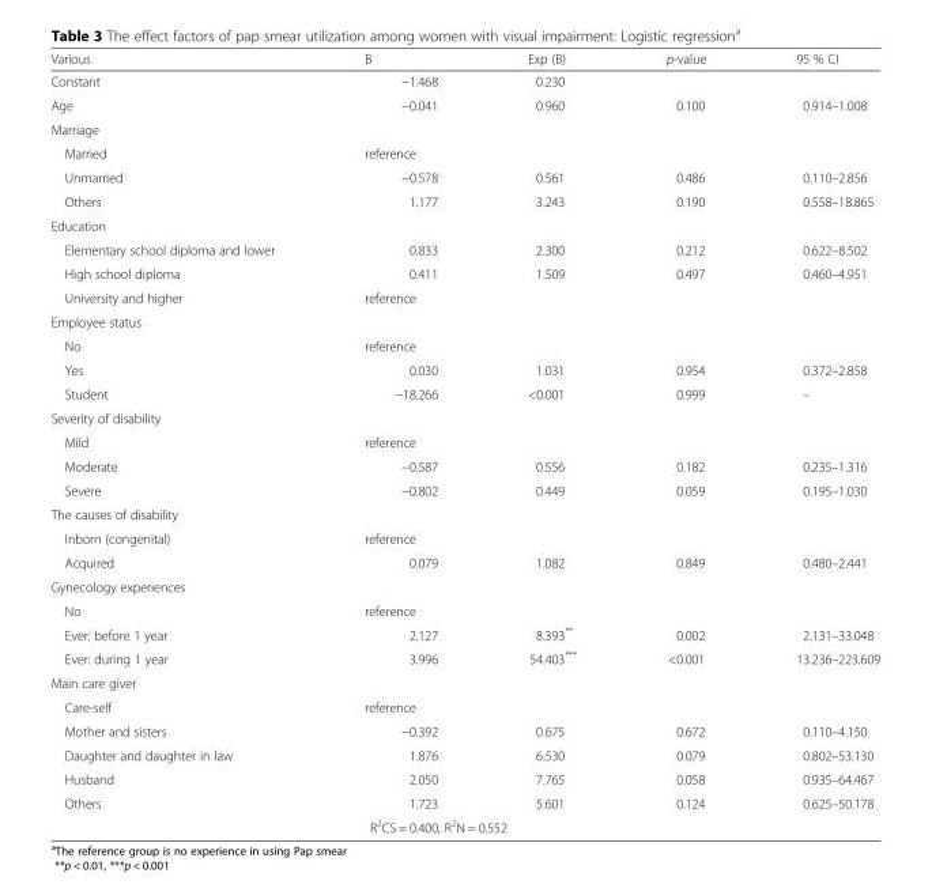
<table><thead><tr><td>Various</td><td>B</td><td>Exp (B)</td><td>p-value</td><td>95 % CI</td></tr></thead><tbody><tr><td>Constant</td><td>−1.468</td><td>0.230</td><td></td><td></td></tr><tr><td>Age</td><td>−0.041</td><td>0.960</td><td>0.100</td><td>0.914–1.008</td></tr><tr><td colspan="5">Marriage</td></tr><tr><td>Married</td><td>reference</td><td></td><td></td><td></td></tr><tr><td>Unmarried</td><td>−0.578</td><td>0.561</td><td>0.486</td><td>0.110–2.856</td></tr><tr><td>Others</td><td>1.177</td><td>3.243</td><td>0.190</td><td>0.558–18.865</td></tr><tr><td colspan="5">Education</td></tr><tr><td>Elementary school diploma and lower</td><td>0.833</td><td>2.300</td><td>0.212</td><td>0.622–8.502</td></tr><tr><td>High school diploma</td><td>0.411</td><td>1.509</td><td>0.497</td><td>0.460–4.951</td></tr><tr><td>University and higher</td><td>reference</td><td></td><td></td><td></td></tr><tr><td colspan="5">Employee status</td></tr><tr><td>No</td><td>reference</td><td></td><td></td><td></td></tr><tr><td>Yes</td><td>0.030</td><td>1.031</td><td>0.954</td><td>0.372–2.858</td></tr><tr><td>Student</td><td>−18.266</td><td>&lt;0.001</td><td>0.999</td><td>–</td></tr><tr><td colspan="5">Severity of disability</td></tr><tr><td>Mild</td><td>reference</td><td></td><td></td><td></td></tr><tr><td>Moderate</td><td>−0.587</td><td>0.556</td><td>0.182</td><td>0.235–1.316</td></tr><tr><td>Severe</td><td>−0.802</td><td>0.449</td><td>0.059</td><td>0.195–1.030</td></tr><tr><td colspan="5">The causes of disability</td></tr><tr><td>Inborn (congenital)</td><td>reference</td><td></td><td></td><td></td></tr><tr><td>Acquired</td><td>0.079</td><td>1.082</td><td>0.849</td><td>0.480–2.441</td></tr><tr><td colspan="5">Gynecology experiences</td></tr><tr><td>No</td><td>reference</td><td></td><td></td><td></td></tr><tr><td>Ever: before 1 year</td><td>2.127</td><td>8.393**</td><td>0.002</td><td>2.131–33.048</td></tr><tr><td>Ever: during 1 year</td><td>3.996</td><td>54.403***</td><td>&lt;0.001</td><td>13.236–223.609</td></tr><tr><td colspan="5">Main care giver</td></tr><tr><td>Care-self</td><td>reference</td><td></td><td></td><td></td></tr><tr><td>Mother and sisters</td><td>−0.392</td><td>0.675</td><td>0.672</td><td>0.110–4.150</td></tr><tr><td>Daughter and daughter in law</td><td>1.876</td><td>6.530</td><td>0.079</td><td>0.802–53.130</td></tr><tr><td>Husband</td><td>2.050</td><td>7.765</td><td>0.058</td><td>0.935–64.467</td></tr><tr><td rowspan="2">Others</td><td>1.723</td><td>5.601</td><td>0.124</td><td>0.625–50.178</td></tr><tr><td colspan="4">R<sup>2</sup>CS = 0.400, R<sup>2</sup>N = 0.552</td></tr></tbody></table>